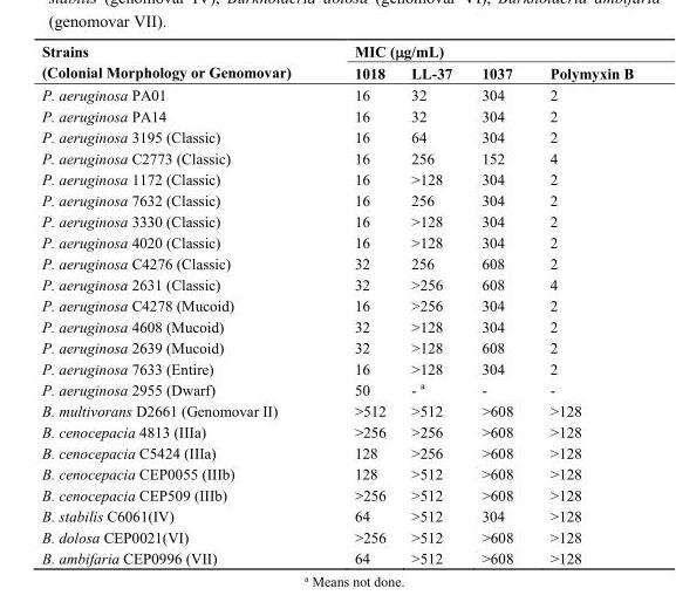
<table><thead><tr><td rowspan="2">Strains (Colonial Morphology or Genomovar)</td><td colspan="4">MIC (μg/mL)</td></tr><tr><td>1018</td><td>LL-37</td><td>1037</td><td>Polymyxin B</td></tr></thead><tbody><tr><td>P. aeruginosa PA01</td><td>16</td><td>32</td><td>304</td><td>2</td></tr><tr><td>P. aeruginosa PA14</td><td>16</td><td>32</td><td>304</td><td>2</td></tr><tr><td>P. aeruginosa 3195 (Classic)</td><td>16</td><td>64</td><td>304</td><td>2</td></tr><tr><td>P. aeruginosa C2773 (Classic)</td><td>16</td><td>256</td><td>152</td><td>4</td></tr><tr><td>P. aeruginosa 1172 (Classic)</td><td>16</td><td>&gt;128</td><td>304</td><td>2</td></tr><tr><td>P. aeruginosa 7632 (Classic)</td><td>16</td><td>256</td><td>304</td><td>2</td></tr><tr><td>P. aeruginosa 3330 (Classic)</td><td>16</td><td>&gt;128</td><td>304</td><td>2</td></tr><tr><td>P. aeruginosa 4020 (Classic)</td><td>16</td><td>&gt;128</td><td>304</td><td>2</td></tr><tr><td>P. aeruginosa C4276 (Classic)</td><td>32</td><td>256</td><td>608</td><td>2</td></tr><tr><td>P. aeruginosa 2631 (Classic)</td><td>32</td><td>&gt;256</td><td>608</td><td>4</td></tr><tr><td>P. aeruginosa C4278 (Mucoid)</td><td>16</td><td>&gt;256</td><td>304</td><td>2</td></tr><tr><td>P. aeruginosa 4608 (Mucoid)</td><td>32</td><td>&gt;128</td><td>304</td><td>2</td></tr><tr><td>P. aeruginosa 2639 (Mucoid)</td><td>32</td><td>&gt;128</td><td>608</td><td>2</td></tr><tr><td>P. aeruginosa 7633 (Entire)</td><td>16</td><td>&gt;128</td><td>304</td><td>2</td></tr><tr><td>P. aeruginosa 2955 (Dwarf)</td><td>50</td><td>- <sup>a</sup></td><td>-</td><td>-</td></tr><tr><td>B. multivorans D2661 (Genomovar II)</td><td>&gt;512</td><td>&gt;512</td><td>&gt;608</td><td>&gt;128</td></tr><tr><td>B. cenocepacia 4813 (IIIa)</td><td>&gt;256</td><td>&gt;256</td><td>&gt;608</td><td>&gt;128</td></tr><tr><td>B. cenocepacia C5424 (IIIa)</td><td>128</td><td>&gt;256</td><td>&gt;608</td><td>&gt;128</td></tr><tr><td>B. cenocepacia CEP0055 (IIIb)</td><td>128</td><td>&gt;512</td><td>&gt;608</td><td>&gt;128</td></tr><tr><td>B. cenocepacia CEP509 (IIIb)</td><td>&gt;256</td><td>&gt;512</td><td>&gt;608</td><td>&gt;128</td></tr><tr><td>B. stabilis C6061(IV)</td><td>64</td><td>&gt;512</td><td>304</td><td>&gt;128</td></tr><tr><td>B. dolosa CEP0021(VI)</td><td>&gt;256</td><td>&gt;512</td><td>&gt;608</td><td>&gt;128</td></tr><tr><td>B. ambifaria CEP0996 (VII)</td><td>64</td><td>&gt;512</td><td>&gt;608</td><td>&gt;128</td></tr></tbody></table>